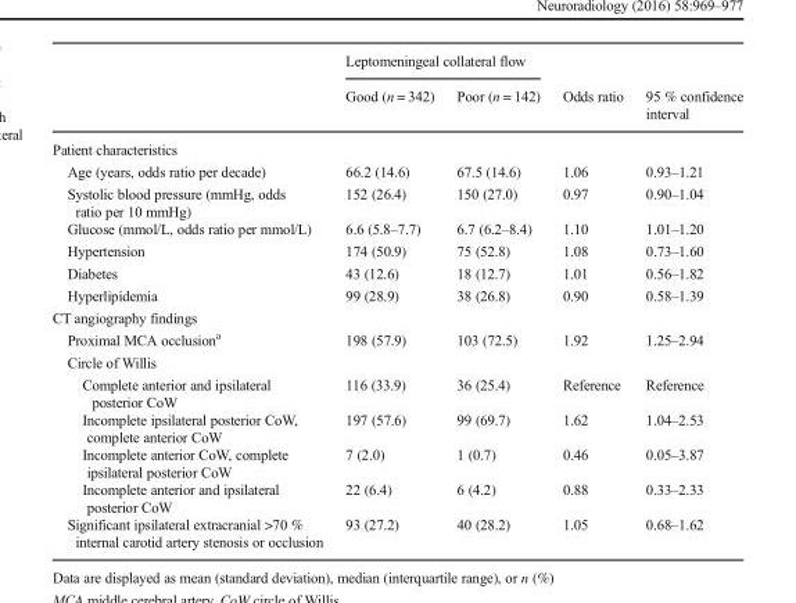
<table><thead><tr><td rowspan="2"></td><td colspan="2">Leptomeningeal collateral flow</td><td rowspan="2">Odds ratio</td><td rowspan="2">95 % confidence interval</td></tr><tr><td>Good (n = 342)</td><td>Poor (n = 142)</td></tr></thead><tbody><tr><td colspan="5">Patient characteristics</td></tr><tr><td>Age (years, odds ratio per decade)</td><td>66.2 (14.6)</td><td>67.5 (14.6)</td><td>1.06</td><td>0.93–1.21</td></tr><tr><td>Systolic blood pressure (mmHg, odds ratio per 10 mmHg)</td><td>152 (26.4)</td><td>150 (27.0)</td><td>0.97</td><td>0.90–1.04</td></tr><tr><td>Glucose (mmol/L, odds ratio per mmol/L)</td><td>6.6 (5.8–7.7)</td><td>6.7 (6.2–8.4)</td><td>1.10</td><td>1.01–1.20</td></tr><tr><td>Hypertension</td><td>174 (50.9)</td><td>75 (52.8)</td><td>1.08</td><td>0.73–1.60</td></tr><tr><td>Diabetes</td><td>43 (12.6)</td><td>18 (12.7)</td><td>1.01</td><td>0.56–1.82</td></tr><tr><td>Hyperlipidemia</td><td>99 (28.9)</td><td>38 (26.8)</td><td>0.90</td><td>0.58–1.39</td></tr><tr><td colspan="5">CT angiography findings</td></tr><tr><td>Proximal MCA occlusion<sup>a</sup></td><td>198 (57.9)</td><td>103 (72.5)</td><td>1.92</td><td>1.25–2.94</td></tr><tr><td colspan="5">Circle of Willis</td></tr><tr><td>Complete anterior and ipsilateral posterior CoW</td><td>116 (33.9)</td><td>36 (25.4)</td><td>Reference</td><td>Reference</td></tr><tr><td>Incomplete ipsilateral posterior CoW, complete anterior CoW</td><td>197 (57.6)</td><td>99 (69.7)</td><td>1.62</td><td>1.04–2.53</td></tr><tr><td>Incomplete anterior CoW, complete ipsilateral posterior CoW</td><td>7 (2.0)</td><td>1 (0.7)</td><td>0.46</td><td>0.05–3.87</td></tr><tr><td>Incomplete anterior and ipsilateral posterior CoW</td><td>22 (6.4)</td><td>6 (4.2)</td><td>0.88</td><td>0.33–2.33</td></tr><tr><td>Significant ipsilateral extracranial &gt;70 % internal carotid artery stenosis or occlusion</td><td>93 (27.2)</td><td>40 (28.2)</td><td>1.05</td><td>0.68–1.62</td></tr></tbody></table>